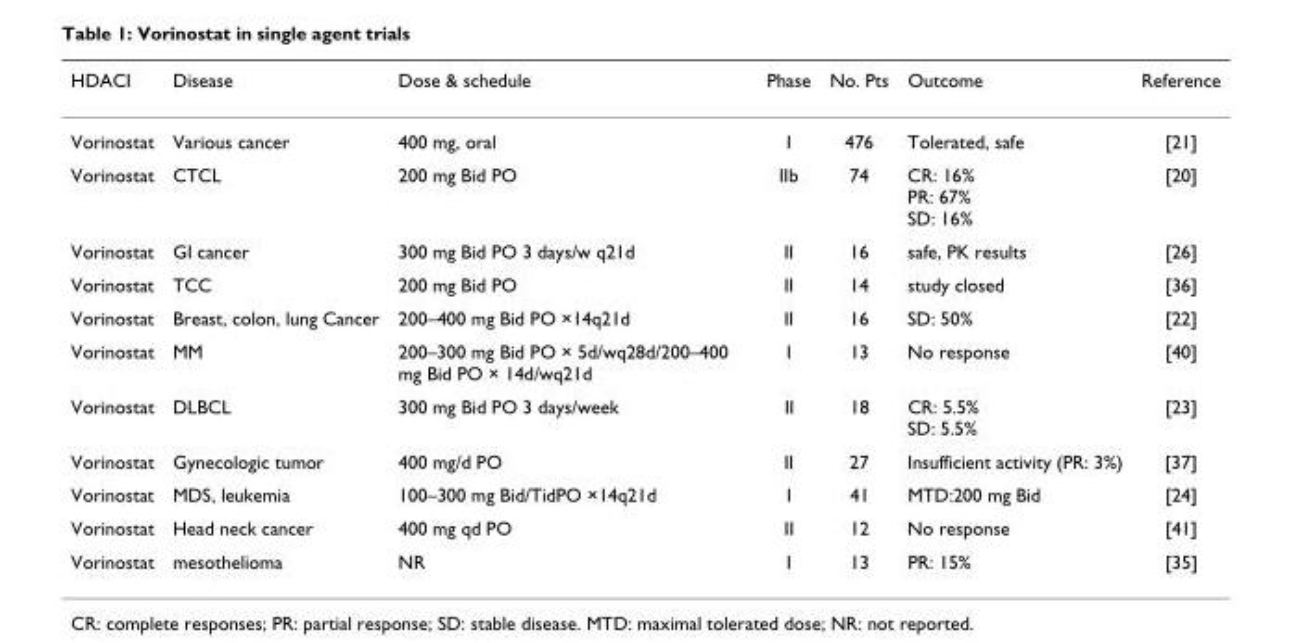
<table><thead><tr><td>HDACI</td><td>Disease</td><td>Dose &amp; schedule</td><td>Phase</td><td>No. Pts</td><td>Outcome</td><td>Reference</td></tr></thead><tbody><tr><td>Vorinostat</td><td>Various cancer</td><td>400 mg, oral</td><td>I</td><td>476</td><td>Tolerated, safe</td><td>[21]</td></tr><tr><td>Vorinostat</td><td>CTCL</td><td>200 mg Bid PO</td><td>IIb</td><td>74</td><td>CR: 16% PR: 67% SD: 16%</td><td>[20]</td></tr><tr><td>Vorinostat</td><td>GI cancer</td><td>300 mg Bid PO 3 days/w q21d</td><td>II</td><td>16</td><td>safe, PK results</td><td>[26]</td></tr><tr><td>Vorinostat</td><td>TCC</td><td>200 mg Bid PO</td><td>II</td><td>14</td><td>study closed</td><td>[36]</td></tr><tr><td>Vorinostat</td><td>Breast, colon, lung Cancer</td><td>200–400 mg Bid PO ×14q21d</td><td>II</td><td>16</td><td>SD: 50%</td><td>[22]</td></tr><tr><td>Vorinostat</td><td>MM</td><td>200–300 mg Bid PO × 5d/wq28d/200–400 mg Bid PO × 14d/wq21d</td><td>I</td><td>13</td><td>No response</td><td>[40]</td></tr><tr><td>Vorinostat</td><td>DLBCL</td><td>300 mg Bid PO 3 days/week</td><td>II</td><td>18</td><td>CR: 5.5% SD: 5.5%</td><td>[23]</td></tr><tr><td>Vorinostat</td><td>Gynecologic tumor</td><td>400 mg/d PO</td><td>II</td><td>27</td><td>Insufficient activity (PR: 3%)</td><td>[37]</td></tr><tr><td>Vorinostat</td><td>MDS, leukemia</td><td>100–300 mg Bid/TidPO ×14q21d</td><td>1</td><td>41</td><td>MTD:200 mg Bid</td><td>[24]</td></tr><tr><td>Vorinostat</td><td>Head neck cancer</td><td>400 mg qd PO</td><td>II</td><td>12</td><td>No response</td><td>[41]</td></tr><tr><td>Vorinostat</td><td>mesothelioma</td><td>NR</td><td>I</td><td>13</td><td>PR: 15%</td><td>[35]</td></tr></tbody></table>